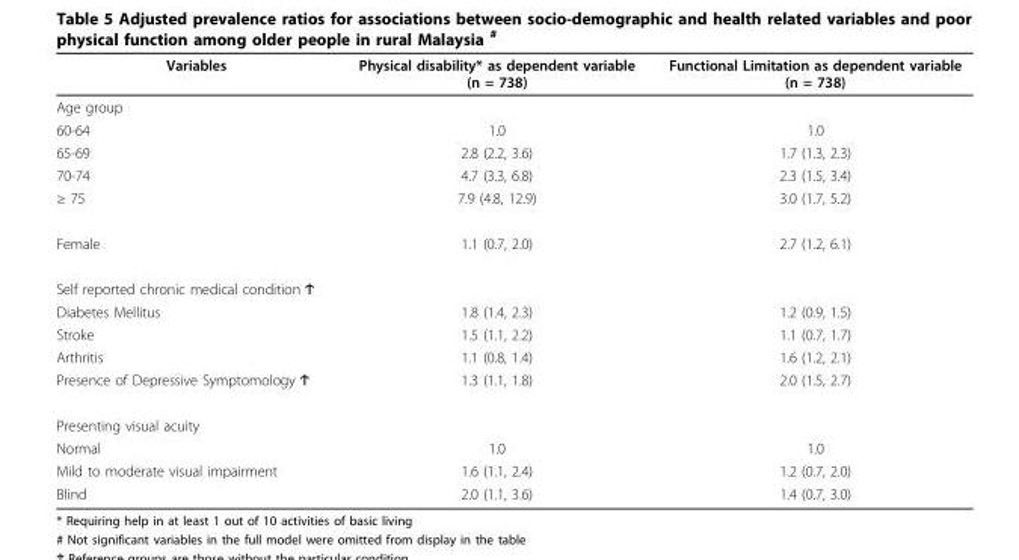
<table><thead><tr><td>Variables</td><td>Physical disability* as dependent variable (n = 738)</td><td>Functional Limitation as dependent variable (n = 738)</td></tr></thead><tbody><tr><td colspan="3">Age group</td></tr><tr><td>60-64</td><td>1.0</td><td>1.0</td></tr><tr><td>65-69</td><td>2.8 (2.2, 3.6)</td><td>1.7 (1.3, 2.3)</td></tr><tr><td>70-74</td><td>4.7 (3.3, 6.8)</td><td>2.3 (1.5, 3.4)</td></tr><tr><td>≥ 75</td><td>7.9 (4.8, 12.9)</td><td>3.0 (1.7, 5.2)</td></tr><tr><td>Female</td><td>1.1 (0.7, 2.0)</td><td>2.7 (1.2, 6.1)</td></tr><tr><td colspan="3">Self reported chronic medical condition Ϯ</td></tr><tr><td>Diabetes Mellitus</td><td>1.8 (1.4, 2.3)</td><td>1.2 (0.9, 1.5)</td></tr><tr><td>Stroke</td><td>1.5 (1.1, 2.2)</td><td>1.1 (0.7, 1.7)</td></tr><tr><td>Arthritis</td><td>1.1 (0.8, 1.4)</td><td>1.6 (1.2, 2.1)</td></tr><tr><td>Presence of Depressive Symptomology Ϯ</td><td>1.3 (1.1, 1.8)</td><td>2.0 (1.5, 2.7)</td></tr><tr><td colspan="3">Presenting visual acuity</td></tr><tr><td>Normal</td><td>1.0</td><td>1.0</td></tr><tr><td>Mild to moderate visual impairment</td><td>1.6 (1.1, 2.4)</td><td>1.2 (0.7, 2.0)</td></tr><tr><td>Blind</td><td>2.0 (1.1, 3.6)</td><td>1.4 (0.7, 3.0)</td></tr></tbody></table>